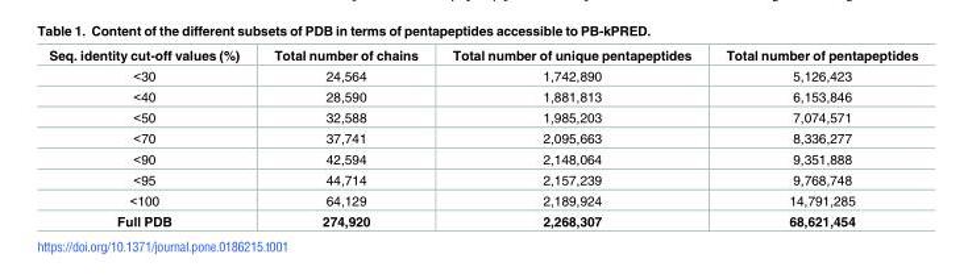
<table><thead><tr><td>Seq. identity cut-off values (%)</td><td>Total number of chains</td><td>Total number of unique pentapeptides</td><td>Total number of pentapeptides</td></tr></thead><tbody><tr><td>&lt;30</td><td>24,564</td><td>1,742,890</td><td>5,126,423</td></tr><tr><td>&lt;40</td><td>28,590</td><td>1,881,813</td><td>6,153,846</td></tr><tr><td>&lt;50</td><td>32,588</td><td>1,985,203</td><td>7,074,571</td></tr><tr><td>&lt;70</td><td>37,741</td><td>2,095,663</td><td>8,336,277</td></tr><tr><td>&lt;90</td><td>42,594</td><td>2,148,064</td><td>9,351,888</td></tr><tr><td>&lt;95</td><td>44,714</td><td>2,157,239</td><td>9,768,748</td></tr><tr><td>&lt;100</td><td>64,129</td><td>2,189,924</td><td>14,791,285</td></tr><tr><td>Full PDB</td><td>274,920</td><td>2,268,307</td><td>68,621,454</td></tr></tbody></table>